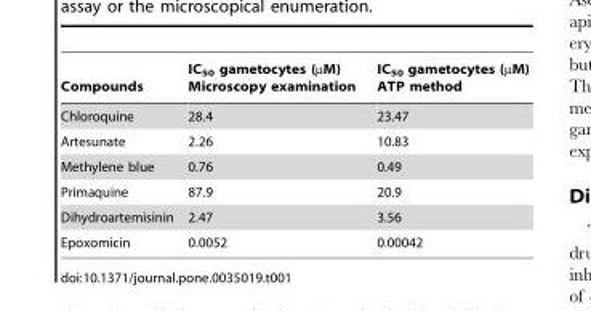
<table><thead><tr><td>Compounds</td><td>IC<sub>50</sub> gametocytes (µM) Microscopy examination</td><td>IC<sub>50</sub> gametocytes (µM) ATP method</td></tr></thead><tbody><tr><td>Chloroquine</td><td>28.4</td><td>23.47</td></tr><tr><td>Artesunate</td><td>2.26</td><td>10.83</td></tr><tr><td>Methylene blue</td><td>0.76</td><td>0.49</td></tr><tr><td>Primaquine</td><td>87.9</td><td>20.9</td></tr><tr><td>Dihydroartemisinin</td><td>2.47</td><td>3.56</td></tr><tr><td>Epoxomicin</td><td>0.0052</td><td>0.00042</td></tr></tbody></table>